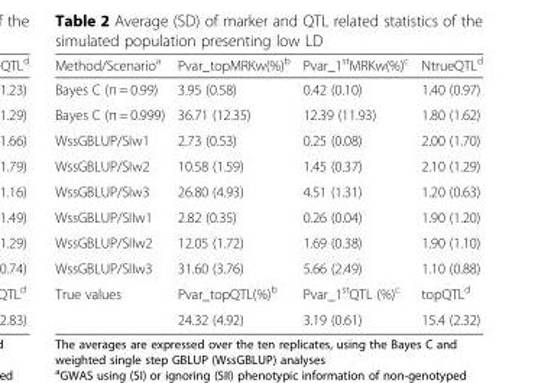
<table><thead><tr><td>Method/Scenario<sup>a</sup></td><td>Pvar_topMRKw(%)<sup>b</sup></td><td>Pvar_1<sup>st</sup>MRKw(%)<sup>c</sup></td><td>NtrueQTL<sup>d</sup></td></tr></thead><tbody><tr><td>Bayes C (π = 0.99)</td><td>3.95 (0.58)</td><td>0.42 (0.10)</td><td>1.40 (0.97)</td></tr><tr><td>Bayes C (π = 0.999)</td><td>36.71 (12.35)</td><td>12.39 (11.93)</td><td>1.80 (1.62)</td></tr><tr><td>WssGBLUP/SIw1</td><td>2.73 (0.53)</td><td>0.25 (0.08)</td><td>2.00 (1.70)</td></tr><tr><td>WssGBLUP/SIw2</td><td>10.58 (1.59)</td><td>1.45 (0.37)</td><td>2.10 (1.29)</td></tr><tr><td>WssGBLUP/SIw3</td><td>26.80 (4.93)</td><td>4.51 (1.31)</td><td>1.20 (0.63)</td></tr><tr><td>WssGBLUP/SIIw1</td><td>2.82 (0.35)</td><td>0.26 (0.04)</td><td>1.90 (1.20)</td></tr><tr><td>WssGBLUP/SIIw2</td><td>12.05 (1.72)</td><td>1.69 (0.38)</td><td>1.90 (1.10)</td></tr><tr><td>WssGBLUP/SIIw3</td><td>31.60 (3.76)</td><td>5.66 (2.49)</td><td>1.10 (0.88)</td></tr><tr><td rowspan="2">True values</td><td>Pvar_topQTL(%)<sup>b</sup></td><td>Pvar_1<sup>st</sup>QTL (%)<sup>c</sup></td><td>topQTL<sup>d</sup></td></tr><tr><td>24.32 (4.92)</td><td>3.19 (0.61)</td><td>15.4 (2.32)</td></tr></tbody></table>